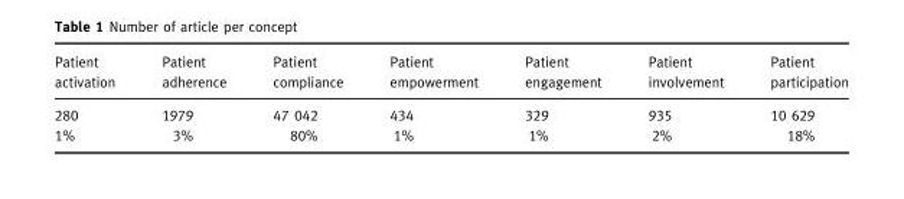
<table><thead><tr><td>Patient activation</td><td>Patient adherence</td><td>Patient compliance</td><td>Patient empowerment</td><td>Patient engagement</td><td>Patient involvement</td><td>Patient participation</td></tr></thead><tbody><tr><td>280</td><td>1979</td><td>47 042</td><td>434</td><td>329</td><td>935</td><td>10 629</td></tr><tr><td>1%</td><td>3%</td><td>80%</td><td>1%</td><td>1%</td><td>2%</td><td>18%</td></tr></tbody></table>